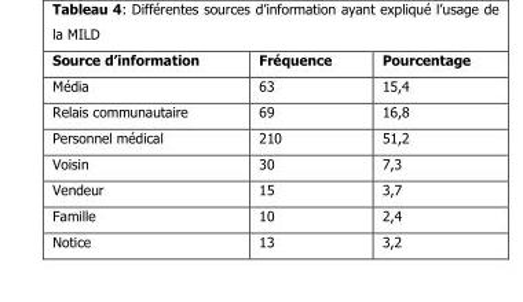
<table><thead><tr><td>Source d’information</td><td>Fréquence</td><td>Pourcentage</td></tr></thead><tbody><tr><td>Média</td><td>63</td><td>15,4</td></tr><tr><td>Relais communautaire</td><td>69</td><td>16,8</td></tr><tr><td>Personnel médical</td><td>210</td><td>51,2</td></tr><tr><td>Voisin</td><td>30</td><td>7,3</td></tr><tr><td>Vendeur</td><td>15</td><td>3,7</td></tr><tr><td>Famille</td><td>10</td><td>2,4</td></tr><tr><td>Notice</td><td>13</td><td>3,2</td></tr></tbody></table>